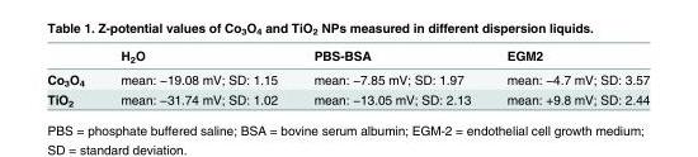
<table><thead><tr><td></td><td>H<sub>2</sub>O</td><td>PBS-BSA</td><td>EGM2</td></tr></thead><tbody><tr><td>Co<sub>3</sub>O<sub>4</sub></td><td>mean: −19.08 mV; SD: 1.15</td><td>mean: −7.85 mV; SD: 1.97</td><td>mean: −4.7 mV; SD: 3.57</td></tr><tr><td>TiO<sub>2</sub></td><td>mean: −31.74 mV; SD: 1.02</td><td>mean: −13.05 mV; SD: 2.13</td><td>mean: +9.8 mV; SD: 2.44</td></tr></tbody></table>